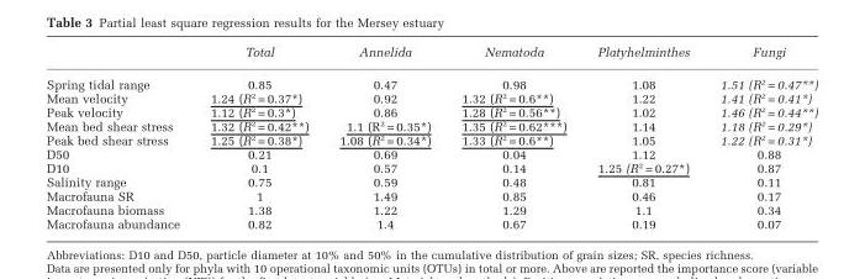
<table><thead><tr><td></td><td>Total</td><td>Annelida</td><td>Nematoda</td><td>Platyhelminthes</td><td>Fungi</td></tr></thead><tbody><tr><td>Spring tidal range</td><td>0.85</td><td>0.47</td><td>0.98</td><td>1.08</td><td>1.51 (R<sup>2</sup> = 0.47**)</td></tr><tr><td>Mean velocity</td><td>1.24 (R<sup>2</sup> = 0.37*)</td><td>0.92</td><td>1.32 (R<sup>2</sup> = 0.6**)</td><td>1.22</td><td>1.41 (R<sup>2</sup> = 0.41*)</td></tr><tr><td>Peak velocity</td><td>1.12 (R<sup>2</sup> = 0.3*)</td><td>0.86</td><td>1.28 (R<sup>2</sup> = 0.56**)</td><td>1.02</td><td>1.46 (R<sup>2</sup> = 0.44**)</td></tr><tr><td>Mean bed shear stress</td><td>1.32 (R<sup>2</sup> = 0.42**)</td><td>1.1 (R<sup>2</sup> = 0.35*)</td><td>1.35 (R<sup>2</sup> = 0.62***)</td><td>1.14</td><td>1.18 (R<sup>2</sup> = 0.29*)</td></tr><tr><td>Peak bed shear stress</td><td>1.25 (R<sup>2</sup> = 0.38*)</td><td>1.08 (R<sup>2</sup> = 0.34*)</td><td>1.33 (R<sup>2</sup> = 0.6**)</td><td>1.05</td><td>1.22 (R<sup>2</sup> = 0.31*)</td></tr><tr><td>D50</td><td>0.21</td><td>0.69</td><td>0.04</td><td>1.12</td><td>0.88</td></tr><tr><td>D10</td><td>0.1</td><td>0.57</td><td>0.14</td><td>1.25 (R<sup>2</sup> = 0.27*)</td><td>0.87</td></tr><tr><td>Salinity range</td><td>0.75</td><td>0.59</td><td>0.48</td><td>0.81</td><td>0.11</td></tr><tr><td>Macrofauna SR</td><td>1</td><td>1.49</td><td>0.85</td><td>0.46</td><td>0.17</td></tr><tr><td>Macrofauna biomass</td><td>1.38</td><td>1.22</td><td>1.29</td><td>1.1</td><td>0.34</td></tr><tr><td>Macrofauna abundance</td><td>0.82</td><td>1.4</td><td>0.67</td><td>0.19</td><td>0.07</td></tr></tbody></table>